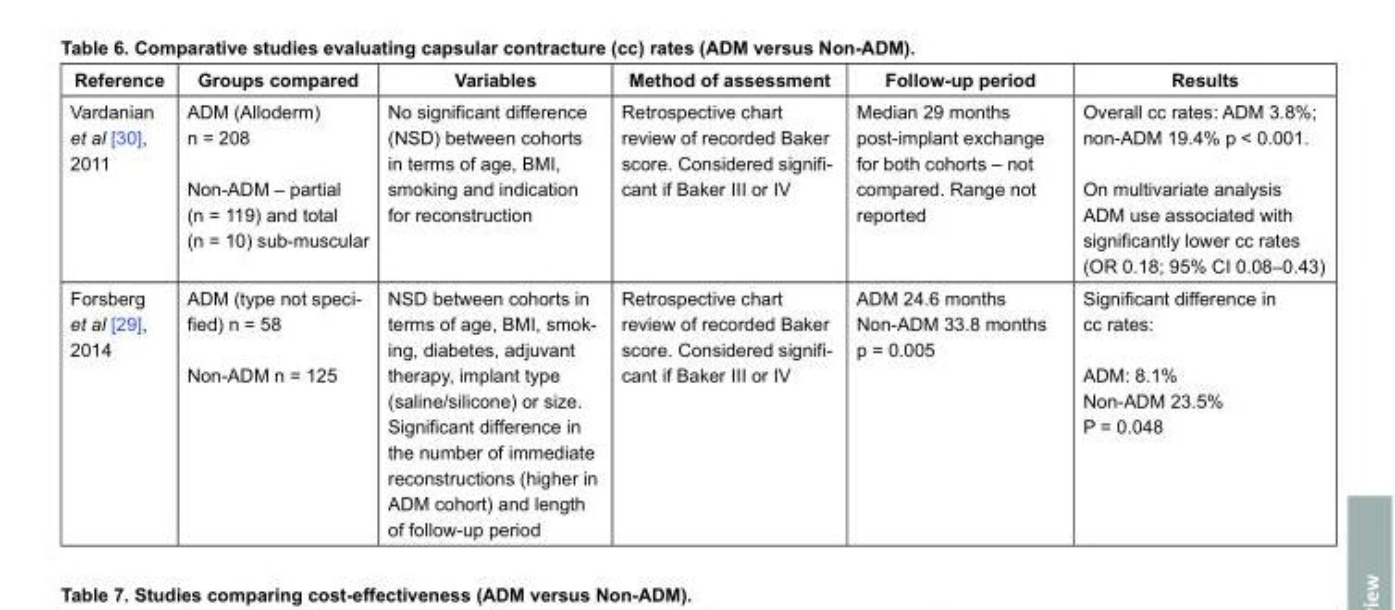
<table><thead><tr><td>Reference</td><td>Groups compared</td><td>Variables</td><td>Method of assessment</td><td>Follow-up period</td><td>Results</td></tr></thead><tbody><tr><td>Vardanian et al [30], 2011</td><td>ADM (Alloderm) n = 208 Non-ADM – partial (n = 119) and total (n = 10) sub-muscular</td><td>No significant difference (NSD) between cohorts in terms of age, BMI, smoking and indication for reconstruction</td><td>Retrospective chart review of recorded Baker score. Considered signifi- cant if Baker III or IV</td><td>Median 29 months post-implant exchange for both cohorts – not compared. Range not reported</td><td>Overall cc rates: ADM 3.8%; non-ADM 19.4% p &lt; 0.001. On multivariate analysis ADM use associated with significantly lower cc rates (OR 0.18; 95% CI 0.08–0.43)</td></tr><tr><td>Forsberg et al [29], 2014</td><td>ADM (type not speci- fied) n = 58 Non-ADM n = 125</td><td>NSD between cohorts in terms of age, BMI, smok- ing, diabetes, adjuvant therapy, implant type (saline/silicone) or size. Significant difference in the number of immediate reconstructions (higher in ADM cohort) and length of follow-up period</td><td>Retrospective chart review of recorded Baker score. Considered signifi- cant if Baker III or IV</td><td>ADM 24.6 months Non-ADM 33.8 months p = 0.005</td><td>Significant difference in cc rates: ADM: 8.1% Non-ADM 23.5% P = 0.048</td></tr></tbody></table>